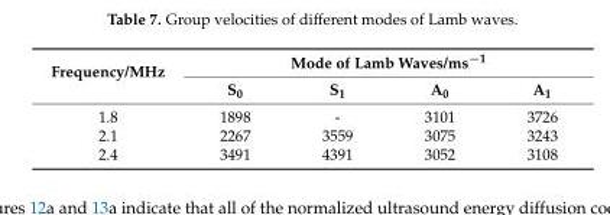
<table><thead><tr><td rowspan="2">Frequency/MHz</td><td colspan="4">Mode of Lamb Waves/ms<sup>−1</sup></td></tr><tr><td>S<sub>0</sub></td><td>S<sub>1</sub></td><td>A<sub>0</sub></td><td>A<sub>1</sub></td></tr></thead><tbody><tr><td>1.8</td><td>1898</td><td>-</td><td>3101</td><td>3726</td></tr><tr><td>2.1</td><td>2267</td><td>3559</td><td>3075</td><td>3243</td></tr><tr><td>2.4</td><td>3491</td><td>4391</td><td>3052</td><td>3108</td></tr></tbody></table>